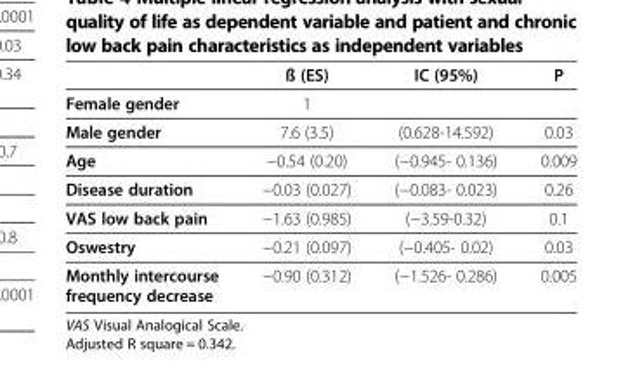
<table><thead><tr><td></td><td>ß (ES)</td><td>IC (95%)</td><td>P</td></tr></thead><tbody><tr><td>Female gender</td><td>1</td><td></td><td></td></tr><tr><td>Male gender</td><td>7.6 (3.5)</td><td>(0.628-14.592)</td><td>0.03</td></tr><tr><td>Age</td><td>−0.54 (0.20)</td><td>(−0.945- 0.136)</td><td>0.009</td></tr><tr><td>Disease duration</td><td>−0.03 (0.027)</td><td>(−0.083- 0.023)</td><td>0.26</td></tr><tr><td>VAS low back pain</td><td>−1.63 (0.985)</td><td>(−3.59-0.32)</td><td>0.1</td></tr><tr><td>Oswestry</td><td>−0.21 (0.097)</td><td>(−0.405- 0.02)</td><td>0.03</td></tr><tr><td>Monthly intercourse frequency decrease</td><td>−0.90 (0.312)</td><td>(−1.526- 0.286)</td><td>0.005</td></tr></tbody></table>